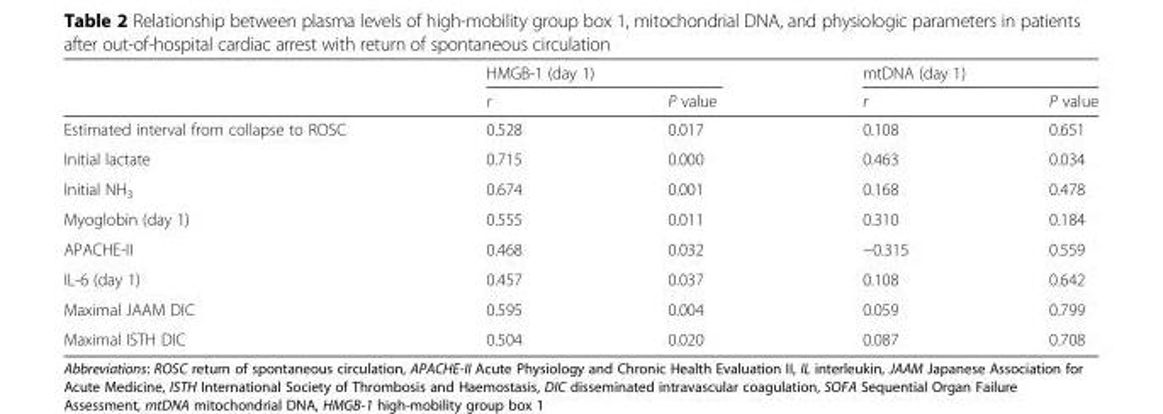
<table><thead><tr><td rowspan="2"></td><td colspan="2">HMGB-1 (day 1)</td><td colspan="2">mtDNA (day 1)</td></tr><tr><td>r</td><td>P value</td><td>r</td><td>P value</td></tr></thead><tbody><tr><td>Estimated interval from collapse to ROSC</td><td>0.528</td><td>0.017</td><td>0.108</td><td>0.651</td></tr><tr><td>Initial lactate</td><td>0.715</td><td>0.000</td><td>0.463</td><td>0.034</td></tr><tr><td>Initial NH<sub>3</sub></td><td>0.674</td><td>0.001</td><td>0.168</td><td>0.478</td></tr><tr><td>Myoglobin (day 1)</td><td>0.555</td><td>0.011</td><td>0.310</td><td>0.184</td></tr><tr><td>APACHE-II</td><td>0.468</td><td>0.032</td><td>−0.315</td><td>0.559</td></tr><tr><td>IL-6 (day 1)</td><td>0.457</td><td>0.037</td><td>0.108</td><td>0.642</td></tr><tr><td>Maximal JAAM DIC</td><td>0.595</td><td>0.004</td><td>0.059</td><td>0.799</td></tr><tr><td>Maximal ISTH DIC</td><td>0.504</td><td>0.020</td><td>0.087</td><td>0.708</td></tr></tbody></table>